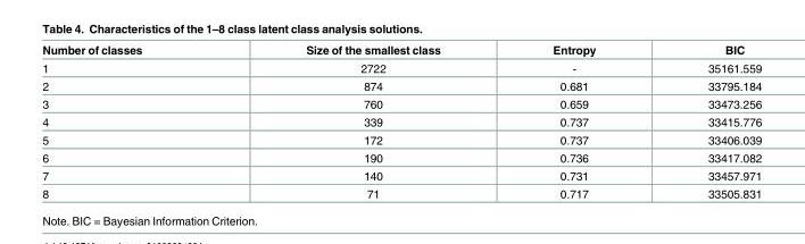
<table><thead><tr><td>Number of classes</td><td>Size of the smallest class</td><td>Entropy</td><td>BIC</td></tr></thead><tbody><tr><td>1</td><td>2722</td><td>-</td><td>35161.559</td></tr><tr><td>2</td><td>874</td><td>0.681</td><td>33795.184</td></tr><tr><td>3</td><td>760</td><td>0.659</td><td>33473.256</td></tr><tr><td>4</td><td>339</td><td>0.737</td><td>33415.776</td></tr><tr><td>5</td><td>172</td><td>0.737</td><td>33406.039</td></tr><tr><td>6</td><td>190</td><td>0.736</td><td>33417.082</td></tr><tr><td>7</td><td>140</td><td>0.731</td><td>33457.971</td></tr><tr><td>8</td><td>71</td><td>0.717</td><td>33505.831</td></tr></tbody></table>